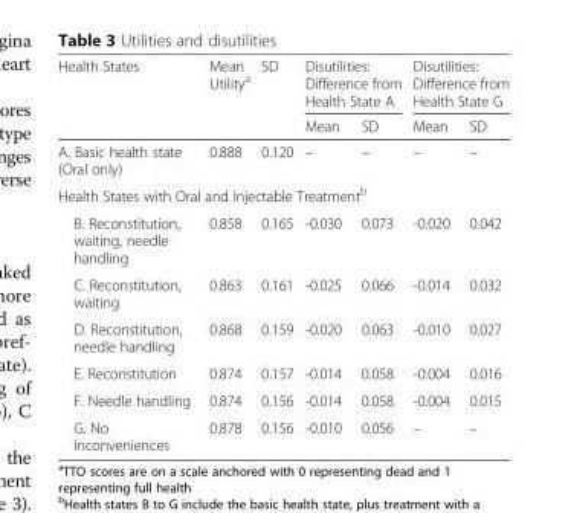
<table><thead><tr><td rowspan="2">Health States</td><td rowspan="2">Mean Utility<sup>a</sup></td><td rowspan="2">SD</td><td colspan="2">Disutilities: Difference from Health State A</td><td colspan="2">Disutilities: Difference from Health State G</td></tr><tr><td>Mean</td><td>SD</td><td>Mean</td><td>SD</td></tr></thead><tbody><tr><td>A. Basic health state (Oral only)</td><td>0.888</td><td>0.120</td><td>–</td><td>–</td><td>–</td><td>–</td></tr><tr><td colspan="7">Health States with Oral and Injectable Treatment<sup>b</sup></td></tr><tr><td>B. Reconstitution, waiting, needle handling</td><td>0.858</td><td>0.165</td><td>-0.030</td><td>0.073</td><td>-0.020</td><td>0.042</td></tr><tr><td>C. Reconstitution, waiting</td><td>0.863</td><td>0.161</td><td>-0.025</td><td>0.066</td><td>-0.014</td><td>0.032</td></tr><tr><td>D. Reconstitution, needle handling</td><td>0.868</td><td>0.159</td><td>-0.020</td><td>0.063</td><td>-0.010</td><td>0.027</td></tr><tr><td>E. Reconstitution</td><td>0.874</td><td>0.157</td><td>-0.014</td><td>0.058</td><td>-0.004</td><td>0.016</td></tr><tr><td>F. Needle handling</td><td>0.874</td><td>0.156</td><td>-0.014</td><td>0.058</td><td>-0.004</td><td>0.015</td></tr><tr><td>G. No inconveniences</td><td>0.878</td><td>0.156</td><td>-0.010</td><td>0.056</td><td>–</td><td>–</td></tr></tbody></table>